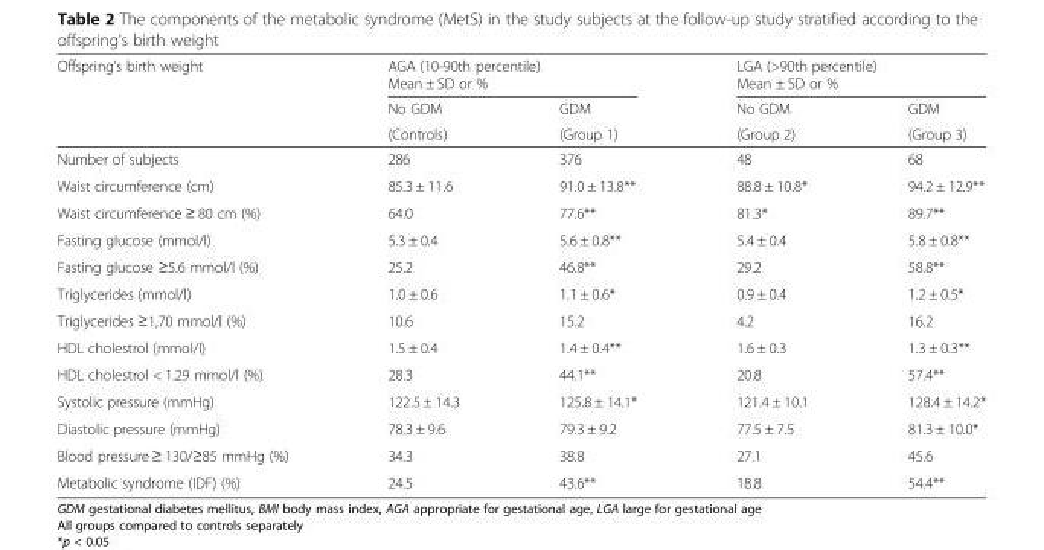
<table><thead><tr><td rowspan="4">Offspring’s birth weight</td><td rowspan="2" colspan="2">AGA (10-90th percentile) Mean ± SD or %</td><td rowspan="2" colspan="2">LGA (&gt;90th percentile) Mean ± SD or %</td></tr><tr></tr><tr><td rowspan="2">No GDM (Controls)</td><td rowspan="2">GDM (Group 1)</td><td rowspan="2">No GDM (Group 2)</td><td rowspan="2">GDM (Group 3)</td></tr><tr></tr></thead><tbody><tr><td>Number of subjects</td><td>286</td><td>376</td><td>48</td><td>68</td></tr><tr><td>Waist circumference (cm)</td><td>85.3 ± 11.6</td><td>91.0 ± 13.8**</td><td>88.8 ± 10.8*</td><td>94.2 ± 12.9**</td></tr><tr><td>Waist circumference ≥ 80 cm (%)</td><td>64.0</td><td>77.6**</td><td>81.3*</td><td>89.7**</td></tr><tr><td>Fasting glucose (mmol/l)</td><td>5.3 ± 0.4</td><td>5.6 ± 0.8**</td><td>5.4 ± 0.4</td><td>5.8 ± 0.8**</td></tr><tr><td>Fasting glucose ≥5.6 mmol/l (%)</td><td>25.2</td><td>46.8**</td><td>29.2</td><td>58.8**</td></tr><tr><td>Triglycerides (mmol/l)</td><td>1.0 ± 0.6</td><td>1.1 ± 0.6*</td><td>0.9 ± 0.4</td><td>1.2 ± 0.5*</td></tr><tr><td>Triglycerides ≥1,70 mmol/l (%)</td><td>10.6</td><td>15.2</td><td>4.2</td><td>16.2</td></tr><tr><td>HDL cholestrol (mmol/l)</td><td>1.5 ± 0.4</td><td>1.4 ± 0.4**</td><td>1.6 ± 0.3</td><td>1.3 ± 0.3**</td></tr><tr><td>HDL cholestrol &lt; 1.29 mmol/l (%)</td><td>28.3</td><td>44.1**</td><td>20.8</td><td>57.4**</td></tr><tr><td>Systolic pressure (mmHg)</td><td>122.5 ± 14.3</td><td>125.8 ± 14.1*</td><td>121.4 ± 10.1</td><td>128.4 ± 14.2*</td></tr><tr><td>Diastolic pressure (mmHg)</td><td>78.3 ± 9.6</td><td>79.3 ± 9.2</td><td>77.5 ± 7.5</td><td>81.3 ± 10.0*</td></tr><tr><td>Blood pressure ≥ 130/≥85 mmHg (%)</td><td>34.3</td><td>38.8</td><td>27.1</td><td>45.6</td></tr><tr><td>Metabolic syndrome (IDF) (%)</td><td>24.5</td><td>43.6**</td><td>18.8</td><td>54.4**</td></tr></tbody></table>